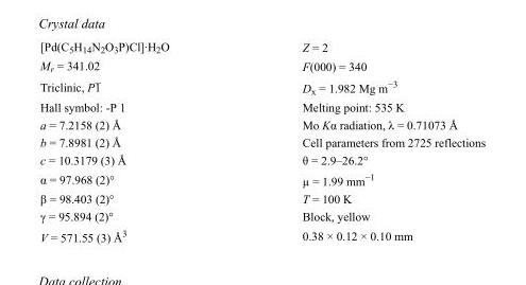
<table><tbody><tr><td>[Pd(C<sub>5</sub>H<sub>14</sub>N<sub>2</sub>O<sub>3</sub>P)Cl]·H<sub>2</sub>O</td><td>Z = 2</td></tr><tr><td>M<sub>r</sub> = 341.02</td><td>F(000) = 340</td></tr><tr><td>Triclinic, P1</td><td>D<sub>x</sub> = 1.982 Mg m<sup>−3</sup></td></tr><tr><td>Hall symbol: -P 1</td><td>Melting point: 535 K</td></tr><tr><td>a = 7.2158 (2) Å</td><td>Mo Kα radiation, λ = 0.71073 Å</td></tr><tr><td>b = 7.8981 (2) Å</td><td>Cell parameters from 2725 reflections</td></tr><tr><td>c = 10.3179 (3) Å</td><td>θ = 2.9–26.2°</td></tr><tr><td>α = 97.968 (2)°</td><td>µ = 1.99 mm<sup>−1</sup></td></tr><tr><td>β = 98.403 (2)°</td><td>T = 100 K</td></tr><tr><td>γ = 95.894 (2)°</td><td>Block, yellow</td></tr><tr><td>V = 571.55 (3) Å<sup>3</sup></td><td>0.38 × 0.12 × 0.10 mm</td></tr></tbody></table>